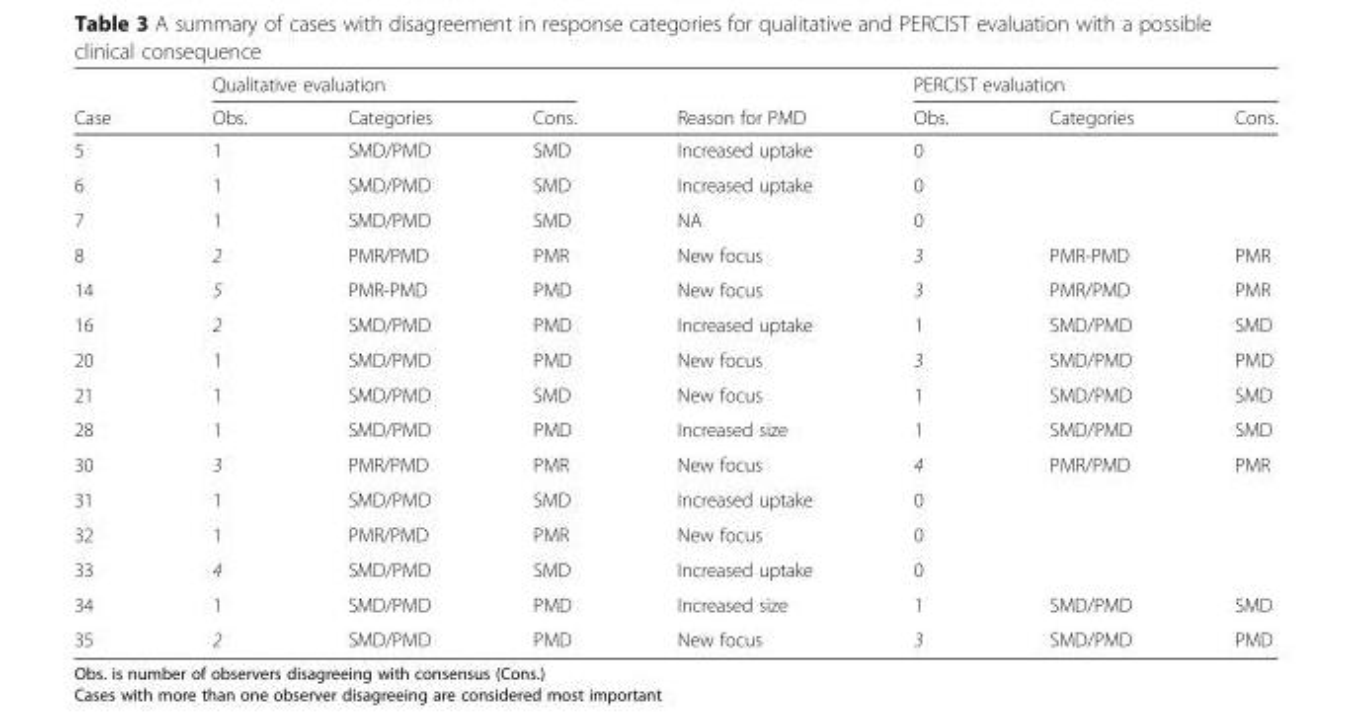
<table><thead><tr><td rowspan="2">Case</td><td colspan="3">Qualitative evaluation</td><td rowspan="2">Reason for PMD</td><td colspan="3">PERCIST evaluation</td></tr><tr><td>Obs.</td><td>Categories</td><td>Cons.</td><td>Obs.</td><td>Categories</td><td>Cons.</td></tr></thead><tbody><tr><td>5</td><td>1</td><td>SMD/PMD</td><td>SMD</td><td>Increased uptake</td><td>0</td><td></td><td></td></tr><tr><td>6</td><td>1</td><td>SMD/PMD</td><td>SMD</td><td>Increased uptake</td><td>0</td><td></td><td></td></tr><tr><td>7</td><td>1</td><td>SMD/PMD</td><td>SMD</td><td>NA</td><td>0</td><td></td><td></td></tr><tr><td>8</td><td>2</td><td>PMR/PMD</td><td>PMR</td><td>New focus</td><td>3</td><td>PMR-PMD</td><td>PMR</td></tr><tr><td>14</td><td>5</td><td>PMR-PMD</td><td>PMD</td><td>New focus</td><td>3</td><td>PMR/PMD</td><td>PMR</td></tr><tr><td>16</td><td>2</td><td>SMD/PMD</td><td>PMD</td><td>Increased uptake</td><td>1</td><td>SMD/PMD</td><td>SMD</td></tr><tr><td>20</td><td>1</td><td>SMD/PMD</td><td>PMD</td><td>New focus</td><td>3</td><td>SMD/PMD</td><td>PMD</td></tr><tr><td>21</td><td>1</td><td>SMD/PMD</td><td>SMD</td><td>New focus</td><td>1</td><td>SMD/PMD</td><td>SMD</td></tr><tr><td>28</td><td>1</td><td>SMD/PMD</td><td>PMD</td><td>Increased size</td><td>1</td><td>SMD/PMD</td><td>SMD</td></tr><tr><td>30</td><td>3</td><td>PMR/PMD</td><td>PMR</td><td>New focus</td><td>4</td><td>PMR/PMD</td><td>PMR</td></tr><tr><td>31</td><td>1</td><td>SMD/PMD</td><td>SMD</td><td>Increased uptake</td><td>0</td><td></td><td></td></tr><tr><td>32</td><td>1</td><td>PMR/PMD</td><td>PMR</td><td>New focus</td><td>0</td><td></td><td></td></tr><tr><td>33</td><td>4</td><td>SMD/PMD</td><td>SMD</td><td>Increased uptake</td><td>0</td><td></td><td></td></tr><tr><td>34</td><td>1</td><td>SMD/PMD</td><td>PMD</td><td>Increased size</td><td>1</td><td>SMD/PMD</td><td>SMD</td></tr><tr><td>35</td><td>2</td><td>SMD/PMD</td><td>PMD</td><td>New focus</td><td>3</td><td>SMD/PMD</td><td>PMD</td></tr></tbody></table>